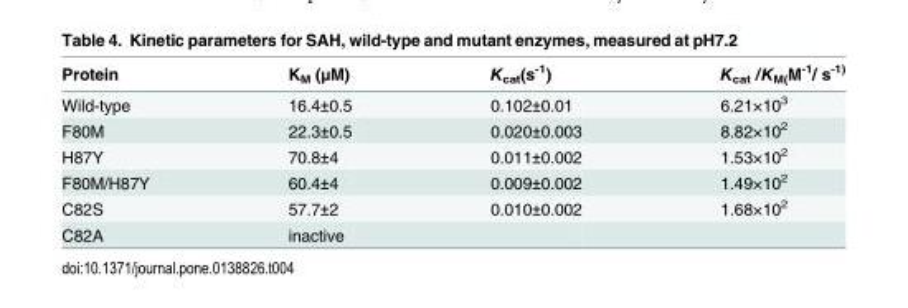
<table><thead><tr><td>Protein</td><td>K<sub>M</sub> (μM)</td><td>K<sub>cat</sub>(s<sup>-1</sup>)</td><td>K<sub>cat</sub> /K<sub>M(</sub>M<sup>-1</sup>/ s<sup>-1)</sup></td></tr></thead><tbody><tr><td>Wild-type</td><td>16.4±0.5</td><td>0.102±0.01</td><td>6.21×10<sup>3</sup></td></tr><tr><td>F80M</td><td>22.3±0.5</td><td>0.020±0.003</td><td>8.82×10<sup>2</sup></td></tr><tr><td>H87Y</td><td>70.8±4</td><td>0.011±0.002</td><td>1.53×10<sup>2</sup></td></tr><tr><td>F80M/H87Y</td><td>60.4±4</td><td>0.009±0.002</td><td>1.49×10<sup>2</sup></td></tr><tr><td>C82S</td><td>57.7±2</td><td>0.010±0.002</td><td>1.68×10<sup>2</sup></td></tr><tr><td>C82A</td><td>inactive</td><td></td><td></td></tr></tbody></table>